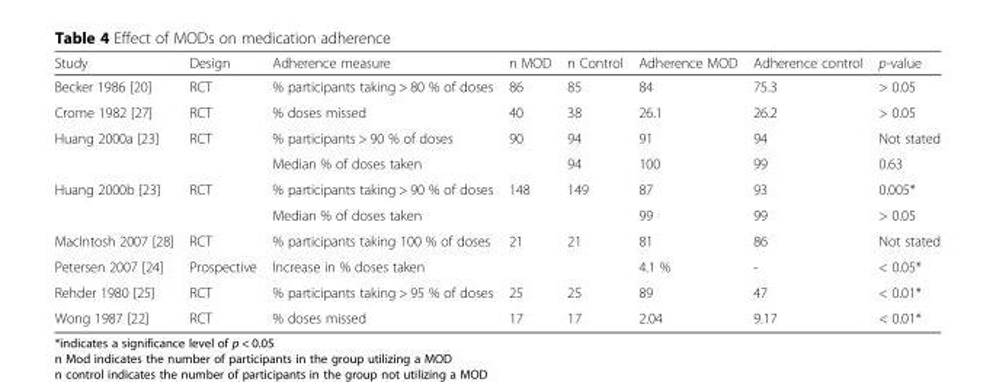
<table><thead><tr><td>Study</td><td>Design</td><td>Adherence measure</td><td>n MOD</td><td>n Control</td><td>Adherence MOD</td><td>Adherence control</td><td>p-value</td></tr></thead><tbody><tr><td>Becker 1986 [20]</td><td>RCT</td><td>% participants taking &gt; 80 % of doses</td><td>86</td><td>85</td><td>84</td><td>75.3</td><td>&gt; 0.05</td></tr><tr><td>Crome 1982 [27]</td><td>RCT</td><td>% doses missed</td><td>40</td><td>38</td><td>26.1</td><td>26.2</td><td>&gt; 0.05</td></tr><tr><td rowspan="2">Huang 2000a [23]</td><td rowspan="2">RCT</td><td>% participants &gt; 90 % of doses</td><td>90</td><td>94</td><td>91</td><td>94</td><td>Not stated</td></tr><tr><td>Median % of doses taken</td><td></td><td>94</td><td>100</td><td>99</td><td>0.63</td></tr><tr><td rowspan="2">Huang 2000b [23]</td><td rowspan="2">RCT</td><td>% participants taking &gt; 90 % of doses</td><td>148</td><td>149</td><td>87</td><td>93</td><td>0.005*</td></tr><tr><td>Median % of doses taken</td><td></td><td></td><td>99</td><td>99</td><td>&gt; 0.05</td></tr><tr><td>MacIntosh 2007 [28]</td><td>RCT</td><td>% participants taking 100 % of doses</td><td>21</td><td>21</td><td>81</td><td>86</td><td>Not stated</td></tr><tr><td>Petersen 2007 [24]</td><td>Prospective</td><td>Increase in % doses taken</td><td></td><td></td><td>4.1 %</td><td>-</td><td>&lt; 0.05*</td></tr><tr><td>Rehder 1980 [25]</td><td>RCT</td><td>% participants taking &gt; 95 % of doses</td><td>25</td><td>25</td><td>89</td><td>47</td><td>&lt; 0.01*</td></tr><tr><td>Wong 1987 [22]</td><td>RCT</td><td>% doses missed</td><td>17</td><td>17</td><td>2.04</td><td>9.17</td><td>&lt; 0.01*</td></tr></tbody></table>